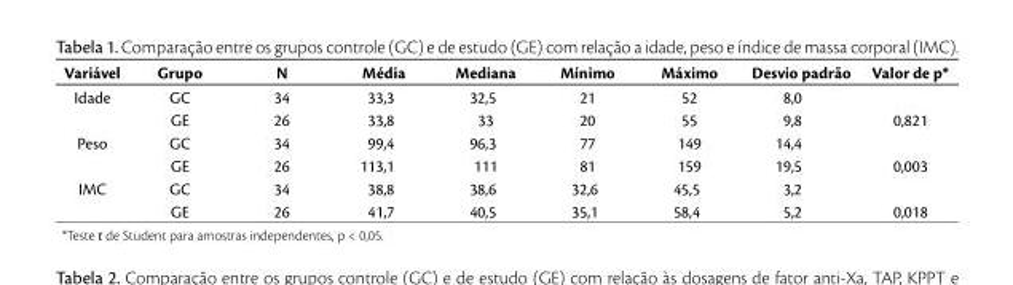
<table><thead><tr><td>Variável</td><td>Grupo</td><td>N</td><td>Média</td><td>Mediana</td><td>Mínimo</td><td>Máximo</td><td>Desvio padrão</td><td>Valor de p*</td></tr></thead><tbody><tr><td rowspan="2">Idade</td><td>GC</td><td>34</td><td>33,3</td><td>32,5</td><td>21</td><td>52</td><td>8,0</td><td></td></tr><tr><td>GE</td><td>26</td><td>33,8</td><td>33</td><td>20</td><td>55</td><td>9,8</td><td>0,821</td></tr><tr><td rowspan="2">Peso</td><td>GC</td><td>34</td><td>99,4</td><td>96,3</td><td>77</td><td>149</td><td>14,4</td><td></td></tr><tr><td>GE</td><td>26</td><td>113,1</td><td>111</td><td>81</td><td>159</td><td>19,5</td><td>0,003</td></tr><tr><td rowspan="2">IMC</td><td>GC</td><td>34</td><td>38,8</td><td>38,6</td><td>32,6</td><td>45,5</td><td>3,2</td><td></td></tr><tr><td>GE</td><td>26</td><td>41,7</td><td>40,5</td><td>35,1</td><td>58,4</td><td>5,2</td><td>0,018</td></tr></tbody></table>